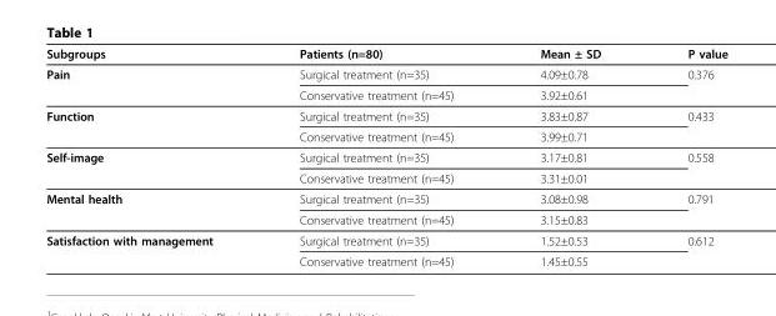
<table><thead><tr><td>Subgroups</td><td>Patients (n=80)</td><td>Mean ± SD</td><td>P value</td></tr></thead><tbody><tr><td rowspan="2">Pain</td><td>Surgical treatment (n=35)</td><td>4.09±0.78</td><td>0.376</td></tr><tr><td>Conservative treatment (n=45)</td><td>3.92±0.61</td><td></td></tr><tr><td rowspan="2">Function</td><td>Surgical treatment (n=35)</td><td>3.83±0.87</td><td>0.433</td></tr><tr><td>Conservative treatment (n=45)</td><td>3.99±0.71</td><td></td></tr><tr><td rowspan="2">Self-image</td><td>Surgical treatment (n=35)</td><td>3.17±0.81</td><td>0.558</td></tr><tr><td>Conservative treatment (n=45)</td><td>3.31±0.01</td><td></td></tr><tr><td rowspan="2">Mental health</td><td>Surgical treatment (n=35)</td><td>3.08±0.98</td><td>0.791</td></tr><tr><td>Conservative treatment (n=45)</td><td>3.15±0.83</td><td></td></tr><tr><td rowspan="2">Satisfaction with management</td><td>Surgical treatment (n=35)</td><td>1.52±0.53</td><td>0.612</td></tr><tr><td>Conservative treatment (n=45)</td><td>1.45±0.55</td><td></td></tr></tbody></table>